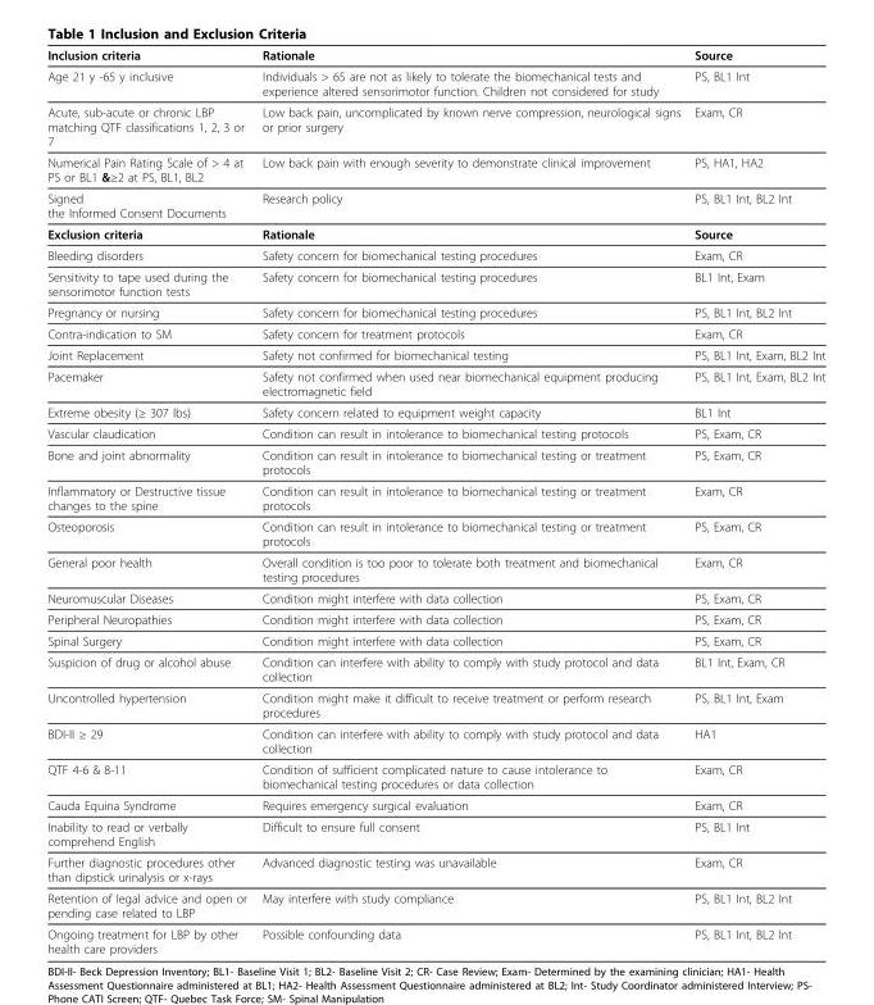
<table><thead><tr><td>Inclusion criteria</td><td>Rationale</td><td>Source</td></tr></thead><tbody><tr><td>Age 21 y -65 y inclusive</td><td>Individuals &gt; 65 are not as likely to tolerate the biomechanical tests and experience altered sensorimotor function. Children not considered for study</td><td>PS, BL1 Int</td></tr><tr><td>Acute, sub-acute or chronic LBP matching QTF classifications 1, 2, 3 or 7</td><td>Low back pain, uncomplicated by known nerve compression, neurological signs or prior surgery</td><td>Exam, CR</td></tr><tr><td>Numerical Pain Rating Scale of &gt; 4 at PS or BL1 &amp;≥2 at PS, BL1, BL2</td><td>Low back pain with enough severity to demonstrate clinical improvement</td><td>PS, HA1, HA2</td></tr><tr><td>Signed the Informed Consent Documents</td><td>Research policy</td><td>PS, BL1 Int, BL2 Int</td></tr><tr><td>Exclusion criteria</td><td>Rationale</td><td>Source</td></tr><tr><td>Bleeding disorders</td><td>Safety concern for biomechanical testing procedures</td><td>Exam, CR</td></tr><tr><td>Sensitivity to tape used during the sensorimotor function tests</td><td>Safety concern for biomechanical testing procedures</td><td>BL1 Int, Exam</td></tr><tr><td>Pregnancy or nursing</td><td>Safety concern for biomechanical testing procedures</td><td>PS, BL1 Int, BL2 Int</td></tr><tr><td>Contra-indication to SM</td><td>Safety concern for treatment protocols</td><td>Exam, CR</td></tr><tr><td>Joint Replacement</td><td>Safety not confirmed for biomechanical testing</td><td>PS, BL1 Int, Exam, BL2 Int</td></tr><tr><td>Pacemaker</td><td>Safety not confirmed when used near biomechanical equipment producing electromagnetic field</td><td>PS, BL1 Int, Exam, BL2 Int</td></tr><tr><td>Extreme obesity (≥ 307 lbs)</td><td>Safety concern related to equipment weight capacity</td><td>BL1 Int</td></tr><tr><td>Vascular claudication</td><td>Condition can result in intolerance to biomechanical testing protocols</td><td>PS, Exam, CR</td></tr><tr><td>Bone and joint abnormality</td><td>Condition can result in intolerance to biomechanical testing or treatment protocols</td><td>PS, Exam, CR</td></tr><tr><td>Inflammatory or Destructive tissue changes to the spine</td><td>Condition can result in intolerance to biomechanical testing or treatment protocols</td><td>Exam, CR</td></tr><tr><td>Osteoporosis</td><td>Condition can result in intolerance to biomechanical testing or treatment protocols</td><td>PS, Exam, CR</td></tr><tr><td>General poor health</td><td>Overall condition is too poor to tolerate both treatment and biomechanical testing procedures</td><td>Exam, CR</td></tr><tr><td>Neuromuscular Diseases</td><td>Condition might interfere with data collection</td><td>PS, Exam, CR</td></tr><tr><td>Peripheral Neuropathies</td><td>Condition might interfere with data collection</td><td>PS, Exam, CR</td></tr><tr><td>Spinal Surgery</td><td>Condition might interfere with data collection</td><td>PS, Exam, CR</td></tr><tr><td>Suspicion of drug or alcohol abuse</td><td>Condition can interfere with ability to comply with study protocol and data collection</td><td>BL1 Int, Exam, CR</td></tr><tr><td>Uncontrolled hypertension</td><td>Condition might make it difficult to receive treatment or perform research procedures</td><td>PS, BL1 Int, Exam</td></tr><tr><td>BDI-II ≥ 29</td><td>Condition can interfere with ability to comply with study protocol and data collection</td><td>HA1</td></tr><tr><td>QTF 4-6 &amp; 8-11</td><td>Condition of sufficient complicated nature to cause intolerance to biomechanical testing procedures or data collection</td><td>Exam, CR</td></tr><tr><td>Cauda Equina Syndrome</td><td>Requires emergency surgical evaluation</td><td>Exam, CR</td></tr><tr><td>Inability to read or verbally comprehend English</td><td>Difficult to ensure full consent</td><td>PS, BL1 Int</td></tr><tr><td>Further diagnostic procedures other than dipstick urinalysis or x-rays</td><td>Advanced diagnostic testing was unavailable</td><td>Exam, CR</td></tr><tr><td>Retention of legal advice and open or pending case related to LBP</td><td>May interfere with study compliance</td><td>PS, BL1 Int, BL2 Int</td></tr><tr><td>Ongoing treatment for LBP by other health care providers</td><td>Possible confounding data</td><td>PS, BL1 Int, BL2 Int</td></tr></tbody></table>